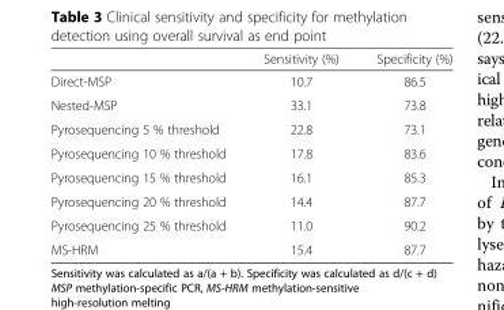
<table><thead><tr><td></td><td>Sensitivity (%)</td><td>Specificity (%)</td></tr></thead><tbody><tr><td>Direct-MSP</td><td>10.7</td><td>86.5</td></tr><tr><td>Nested-MSP</td><td>33.1</td><td>73.8</td></tr><tr><td>Pyrosequencing 5 % threshold</td><td>22.8</td><td>73.1</td></tr><tr><td>Pyrosequencing 10 % threshold</td><td>17.8</td><td>83.6</td></tr><tr><td>Pyrosequencing 15 % threshold</td><td>16.1</td><td>85.3</td></tr><tr><td>Pyrosequencing 20 % threshold</td><td>14.4</td><td>87.7</td></tr><tr><td>Pyrosequencing 25 % threshold</td><td>11.0</td><td>90.2</td></tr><tr><td>MS-HRM</td><td>15.4</td><td>87.7</td></tr></tbody></table>